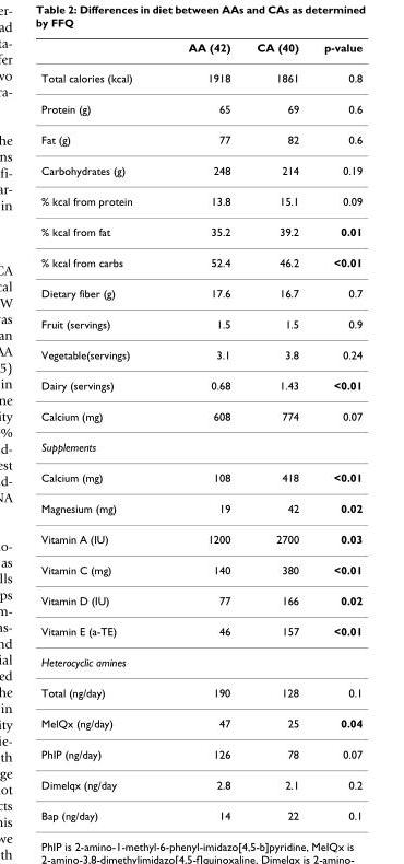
<table><thead><tr><td></td><td>AA (42)</td><td>CA (40)</td><td>p-value</td></tr></thead><tbody><tr><td>Total calories (kcal)</td><td>1918</td><td>1861</td><td>0.8</td></tr><tr><td>Protein (g)</td><td>65</td><td>69</td><td>0.6</td></tr><tr><td>Fat (g)</td><td>77</td><td>82</td><td>0.6</td></tr><tr><td>Carbohydrates (g)</td><td>248</td><td>214</td><td>0.19</td></tr><tr><td>% kcal from protein</td><td>13.8</td><td>15.1</td><td>0.09</td></tr><tr><td>% kcal from fat</td><td>35.2</td><td>39.2</td><td>0.01</td></tr><tr><td>% kcal from carbs</td><td>52.4</td><td>46.2</td><td>&lt;0.01</td></tr><tr><td>Dietary fiber (g)</td><td>17.6</td><td>16.7</td><td>0.7</td></tr><tr><td>Fruit (servings)</td><td>1.5</td><td>1.5</td><td>0.9</td></tr><tr><td>Vegetable(servings)</td><td>3.1</td><td>3.8</td><td>0.24</td></tr><tr><td>Dairy (servings)</td><td>0.68</td><td>1.43</td><td>&lt;0.01</td></tr><tr><td>Calcium (mg)</td><td>608</td><td>774</td><td>0.07</td></tr><tr><td colspan="4">Supplements</td></tr><tr><td>Calcium (mg)</td><td>108</td><td>418</td><td>&lt;0.01</td></tr><tr><td>Magnesium (mg)</td><td>19</td><td>42</td><td>0.02</td></tr><tr><td>Vitamin A (IU)</td><td>1200</td><td>2700</td><td>0.03</td></tr><tr><td>Vitamin C (mg)</td><td>140</td><td>380</td><td>&lt;0.01</td></tr><tr><td>Vitamin D (IU)</td><td>77</td><td>166</td><td>0.02</td></tr><tr><td>Vitamin E (a-TE)</td><td>46</td><td>157</td><td>&lt;0.01</td></tr><tr><td colspan="4">Heterocyclic amines</td></tr><tr><td>Total (ng/day)</td><td>190</td><td>128</td><td>0.1</td></tr><tr><td>MelQx (ng/day)</td><td>47</td><td>25</td><td>0.04</td></tr><tr><td>PhIP (ng/day)</td><td>126</td><td>78</td><td>0.07</td></tr><tr><td>Dimelqx (ng/day</td><td>2.8</td><td>2.1</td><td>0.2</td></tr><tr><td>Bap (ng/day)</td><td>14</td><td>22</td><td>0.1</td></tr></tbody></table>